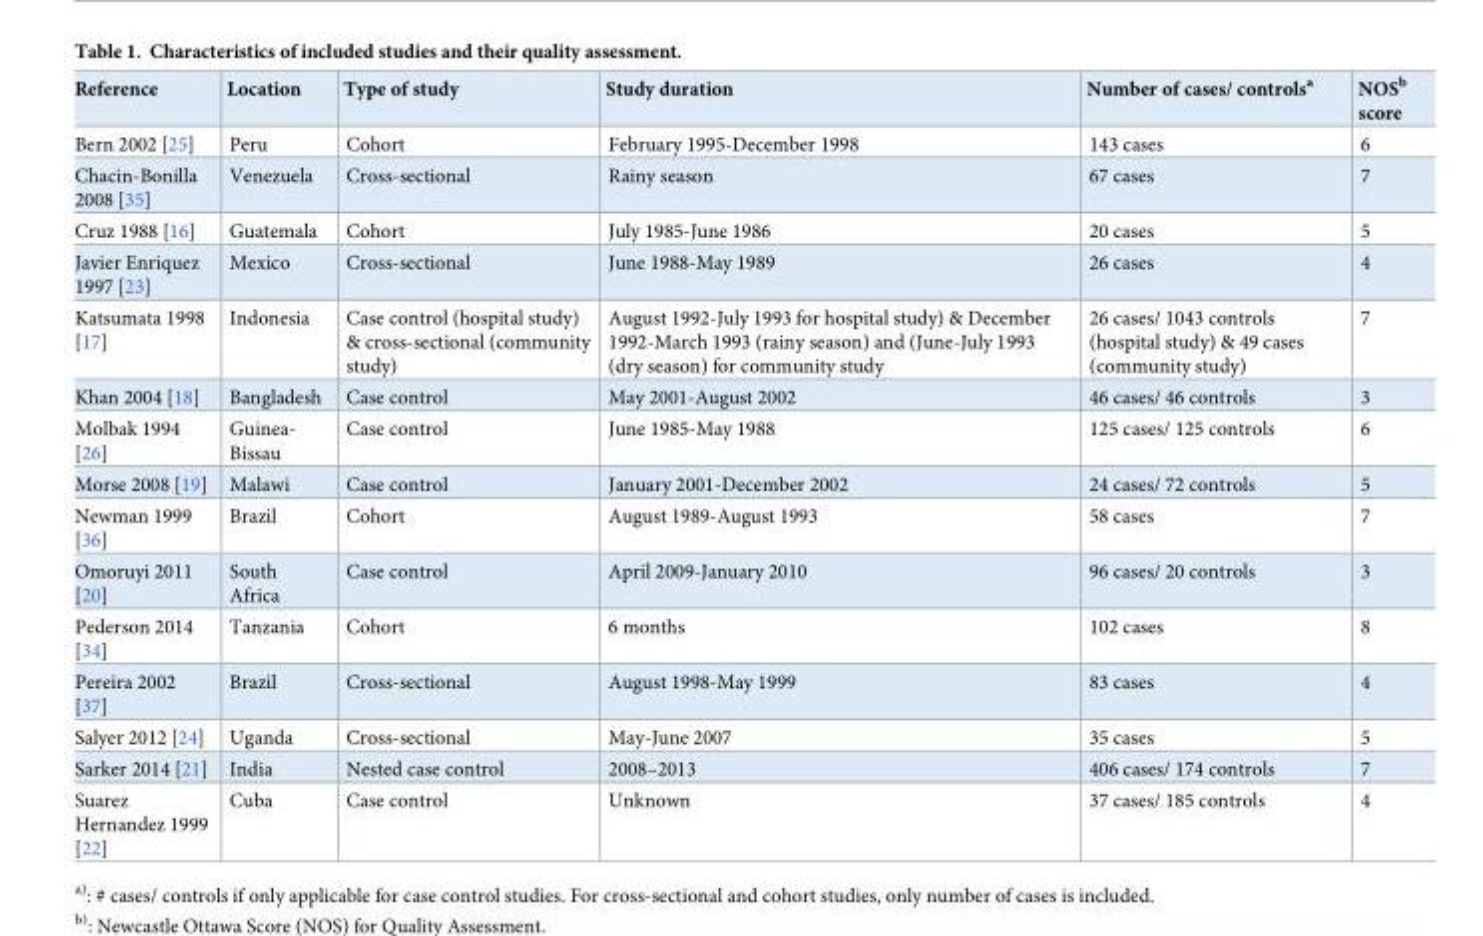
<table><thead><tr><td>Reference</td><td>Location</td><td>Type of study</td><td>Study duration</td><td>Number of cases/ controls<sup>a</sup></td><td>NOS<sup>b</sup> score</td></tr></thead><tbody><tr><td>Bern 2002 [25]</td><td>Peru</td><td>Cohort</td><td>February 1995-December 1998</td><td>143 cases</td><td>6</td></tr><tr><td>Chacin-Bonilla 2008 [35]</td><td>Venezuela</td><td>Cross-sectional</td><td>Rainy season</td><td>67 cases</td><td>7</td></tr><tr><td>Cruz 1988 [16]</td><td>Guatemala</td><td>Cohort</td><td>July 1985-June 1986</td><td>20 cases</td><td>5</td></tr><tr><td>Javier Enriquez 1997 [23]</td><td>Mexico</td><td>Cross-sectional</td><td>June 1988-May 1989</td><td>26 cases</td><td>4</td></tr><tr><td>Katsumata 1998 [17]</td><td>Indonesia</td><td>Case control (hospital study) &amp; cross-sectional (community study)</td><td>August 1992-July 1993 for hospital study) &amp; December 1992-March 1993 (rainy season) and (June-July 1993 (dry season) for community study</td><td>26 cases/ 1043 controls (hospital study) &amp; 49 cases (community study)</td><td>7</td></tr><tr><td>Khan 2004 [18]</td><td>Bangladesh</td><td>Case control</td><td>May 2001-August 2002</td><td>46 cases/ 46 controls</td><td>3</td></tr><tr><td>Molbak 1994 [26]</td><td>Guinea- Bissau</td><td>Case control</td><td>June 1985-May 1988</td><td>125 cases/ 125 controls</td><td>6</td></tr><tr><td>Morse 2008 [19]</td><td>Malawi</td><td>Case control</td><td>January 2001-December 2002</td><td>24 cases/ 72 controls</td><td>5</td></tr><tr><td>Newman 1999 [36]</td><td>Brazil</td><td>Cohort</td><td>August 1989-August 1993</td><td>58 cases</td><td>7</td></tr><tr><td>Omoruyi 2011 [20]</td><td>South Africa</td><td>Case control</td><td>April 2009-January 2010</td><td>96 cases/ 20 controls</td><td>3</td></tr><tr><td>Pederson 2014 [34]</td><td>Tanzania</td><td>Cohort</td><td>6 months</td><td>102 cases</td><td>8</td></tr><tr><td>Pereira 2002 [37]</td><td>Brazil</td><td>Cross-sectional</td><td>August 1998-May 1999</td><td>83 cases</td><td>4</td></tr><tr><td>Salyer 2012 [24]</td><td>Uganda</td><td>Cross-sectional</td><td>May-June 2007</td><td>35 cases</td><td>5</td></tr><tr><td>Sarker 2014 [21]</td><td>India</td><td>Nested case control</td><td>2008–2013</td><td>406 cases/ 174 controls</td><td>7</td></tr><tr><td>Suarez Hernandez 1999 [22]</td><td>Cuba</td><td>Case control</td><td>Unknown</td><td>37 cases/ 185 controls</td><td>4</td></tr></tbody></table>